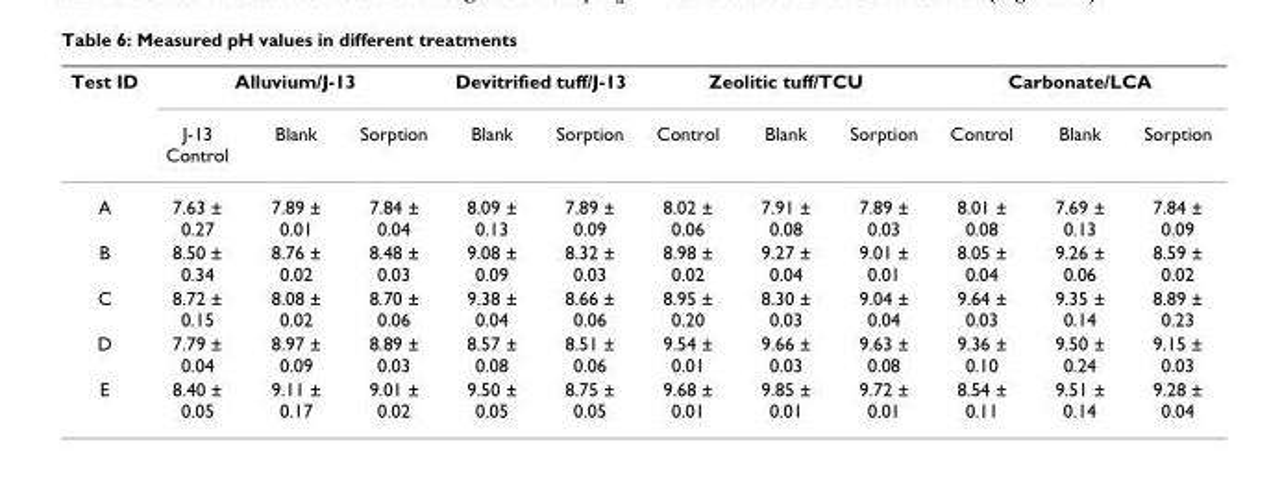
<table><thead><tr><td rowspan="2">Test ID</td><td colspan="3">Alluvium/J-13</td><td colspan="2">Devitrified tuff/J-13</td><td colspan="3">Zeolitic tuff/TCU</td><td colspan="3">Carbonate/LCA</td></tr><tr><td>J-13 Control</td><td>Blank</td><td>Sorption</td><td>Blank</td><td>Sorption</td><td>Control</td><td>Blank</td><td>Sorption</td><td>Control</td><td>Blank</td><td>Sorption</td></tr></thead><tbody><tr><td>A</td><td>7.63 ± 0.27</td><td>7.89 ± 0.01</td><td>7.84 ± 0.04</td><td>8.09 ± 0.13</td><td>7.89 ± 0.09</td><td>8.02 ± 0.06</td><td>7.91 ± 0.08</td><td>7.89 ± 0.03</td><td>8.01 ± 0.08</td><td>7.69 ± 0.13</td><td>7.84 ± 0.09</td></tr><tr><td>B</td><td>8.50 ± 0.34</td><td>8.76 ± 0.02</td><td>8.48 ± 0.03</td><td>9.08 ± 0.09</td><td>8.32 ± 0.03</td><td>8.98 ± 0.02</td><td>9.27 ± 0.04</td><td>9.01 ± 0.01</td><td>8.05 ± 0.04</td><td>9.26 ± 0.06</td><td>8.59 ± 0.02</td></tr><tr><td>C</td><td>8.72 ± 0.15</td><td>8.08 ± 0.02</td><td>8.70 ± 0.06</td><td>9.38 ± 0.04</td><td>8.66 ± 0.06</td><td>8.95 ± 0.20</td><td>8.30 ± 0.03</td><td>9.04 ± 0.04</td><td>9.64 ± 0.03</td><td>9.35 ± 0.14</td><td>8.89 ± 0.23</td></tr><tr><td>D</td><td>7.79 ± 0.04</td><td>8.97 ± 0.09</td><td>8.89 ± 0.03</td><td>8.57 ± 0.08</td><td>8.51 ± 0.06</td><td>9.54 ± 0.01</td><td>9.66 ± 0.03</td><td>9.63 ± 0.08</td><td>9.36 ± 0.10</td><td>9.50 ± 0.24</td><td>9.15 ± 0.03</td></tr><tr><td>E</td><td>8.40 ± 0.05</td><td>9.11 ± 0.17</td><td>9.01 ± 0.02</td><td>9.50 ± 0.05</td><td>8.75 ± 0.05</td><td>9.68 ± 0.01</td><td>9.85 ± 0.01</td><td>9.72 ± 0.01</td><td>8.54 ± 0.11</td><td>9.51 ± 0.14</td><td>9.28 ± 0.04</td></tr></tbody></table>